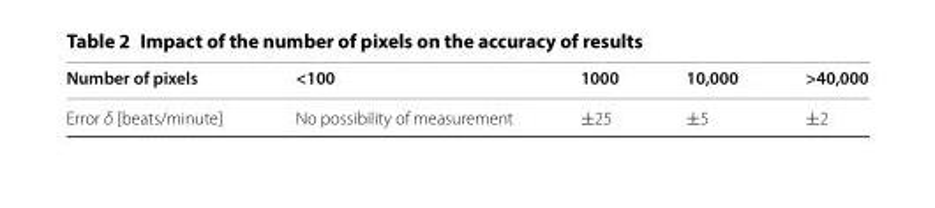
<table><thead><tr><td>Number of pixels</td><td>&lt;100</td><td>1000</td><td>10,000</td><td>&gt;40,000</td></tr></thead><tbody><tr><td>Error δ [beats/minute]</td><td>No possibility of measurement</td><td>±25</td><td>±5</td><td>±2</td></tr></tbody></table>